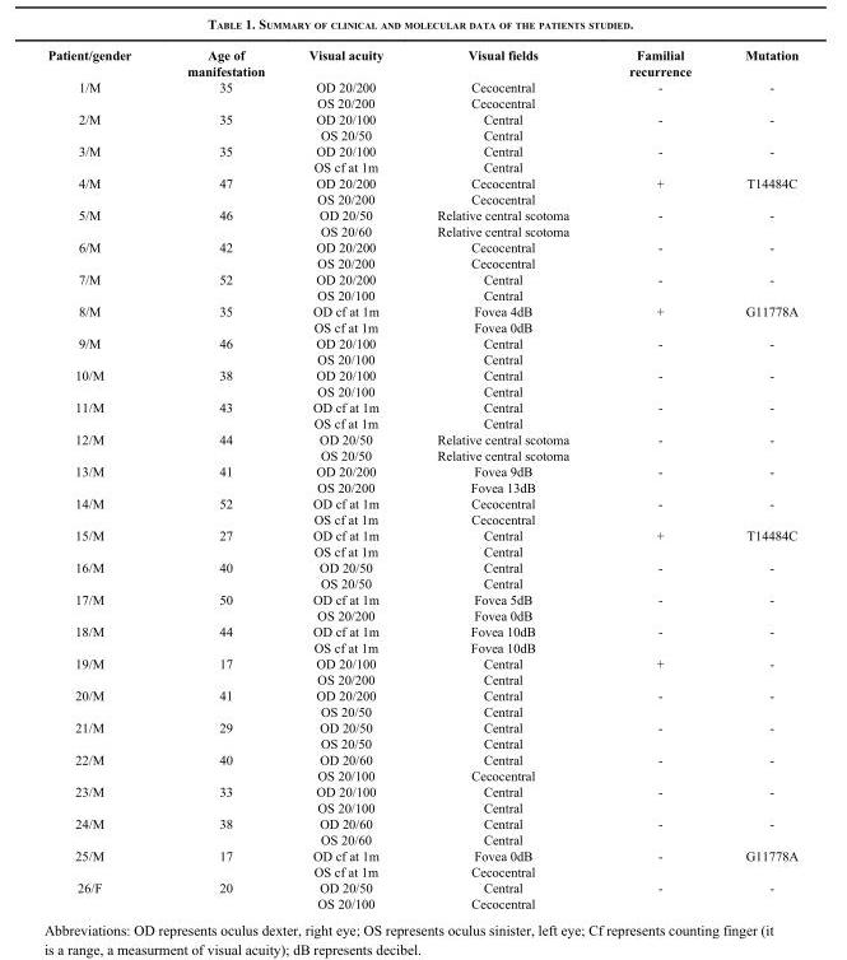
<table><thead><tr><td>Patient/gender</td><td>Age of manifestation</td><td>Visual acuity</td><td>Visual fields</td><td>Familial recurrence</td><td>Mutation</td></tr></thead><tbody><tr><td rowspan="2">1/M</td><td>35</td><td>OD 20/200</td><td>Cecocentral</td><td>-</td><td>-</td></tr><tr><td></td><td>OS 20/200</td><td>Cecocentral</td><td></td><td></td></tr><tr><td rowspan="2">2/M</td><td>35</td><td>OD 20/100</td><td>Central</td><td>-</td><td>-</td></tr><tr><td></td><td>OS 20/50</td><td>Central</td><td></td><td></td></tr><tr><td rowspan="2">3/M</td><td>35</td><td>OD 20/100</td><td>Central</td><td>-</td><td>-</td></tr><tr><td></td><td>OS cf at 1m</td><td>Central</td><td></td><td></td></tr><tr><td rowspan="2">4/M</td><td>47</td><td>OD 20/200</td><td>Cecocentral</td><td>+</td><td>T14484C</td></tr><tr><td></td><td>OS 20/200</td><td>Cecocentral</td><td></td><td></td></tr><tr><td rowspan="2">5/M</td><td>46</td><td>OD 20/50</td><td>Relative central scotoma</td><td>-</td><td>-</td></tr><tr><td></td><td>OS 20/60</td><td>Relative central scotoma</td><td></td><td></td></tr><tr><td rowspan="2">6/M</td><td>42</td><td>OD 20/200</td><td>Cecocentral</td><td>-</td><td>-</td></tr><tr><td></td><td>OS 20/200</td><td>Cecocentral</td><td></td><td></td></tr><tr><td rowspan="2">7/M</td><td>52</td><td>OD 20/200</td><td>Central</td><td>-</td><td>-</td></tr><tr><td></td><td>OS 20/100</td><td>Central</td><td></td><td></td></tr><tr><td rowspan="2">8/M</td><td>35</td><td>OD cf at 1m</td><td>Fovea 4dB</td><td>+</td><td>G11778A</td></tr><tr><td></td><td>OS cf at 1m</td><td>Fovea 0dB</td><td></td><td></td></tr><tr><td rowspan="2">9/M</td><td>46</td><td>OD 20/100</td><td>Central</td><td>-</td><td>-</td></tr><tr><td></td><td>OS 20/100</td><td>Central</td><td></td><td></td></tr><tr><td rowspan="2">10/M</td><td>38</td><td>OD 20/100</td><td>Central</td><td>-</td><td>-</td></tr><tr><td></td><td>OS 20/100</td><td>Central</td><td></td><td></td></tr><tr><td rowspan="2">11/M</td><td>43</td><td>OD cf at 1m</td><td>Central</td><td>-</td><td>-</td></tr><tr><td></td><td>OS cf at 1m</td><td>Central</td><td></td><td></td></tr><tr><td rowspan="2">12/M</td><td>44</td><td>OD 20/50</td><td>Relative central scotoma</td><td>-</td><td>-</td></tr><tr><td></td><td>OS 20/50</td><td>Relative central scotoma</td><td></td><td></td></tr><tr><td rowspan="2">13/M</td><td>41</td><td>OD 20/200</td><td>Fovea 9dB</td><td>-</td><td>-</td></tr><tr><td></td><td>OS 20/200</td><td>Fovea 13dB</td><td></td><td></td></tr><tr><td rowspan="2">14/M</td><td>52</td><td>OD cf at 1m</td><td>Cecocentral</td><td>-</td><td>-</td></tr><tr><td></td><td>OS cf at 1m</td><td>Cecocentral</td><td></td><td></td></tr><tr><td rowspan="2">15/M</td><td>27</td><td>OD cf at 1m</td><td>Central</td><td>+</td><td>T14484C</td></tr><tr><td></td><td>OS cf at 1m</td><td>Central</td><td></td><td></td></tr><tr><td rowspan="2">16/M</td><td>40</td><td>OD 20/50</td><td>Central</td><td>-</td><td>-</td></tr><tr><td></td><td>OS 20/50</td><td>Central</td><td></td><td></td></tr><tr><td rowspan="2">17/M</td><td>50</td><td>OD cf at 1m</td><td>Fovea 5dB</td><td>-</td><td>-</td></tr><tr><td></td><td>OS 20/200</td><td>Fovea 0dB</td><td></td><td></td></tr><tr><td rowspan="2">18/M</td><td>44</td><td>OD cf at 1m</td><td>Fovea 10dB</td><td>-</td><td>-</td></tr><tr><td></td><td>OS cf at 1m</td><td>Fovea 10dB</td><td></td><td></td></tr><tr><td rowspan="2">19/M</td><td>17</td><td>OD 20/100</td><td>Central</td><td>+</td><td>-</td></tr><tr><td></td><td>OS 20/200</td><td>Central</td><td></td><td></td></tr><tr><td rowspan="2">20/M</td><td>41</td><td>OD 20/200</td><td>Central</td><td>-</td><td>-</td></tr><tr><td></td><td>OS 20/50</td><td>Central</td><td></td><td></td></tr><tr><td rowspan="2">21/M</td><td>29</td><td>OD 20/50</td><td>Central</td><td>-</td><td>-</td></tr><tr><td></td><td>OS 20/50</td><td>Central</td><td></td><td></td></tr><tr><td rowspan="2">22/M</td><td>40</td><td>OD 20/60</td><td>Central</td><td>-</td><td>-</td></tr><tr><td></td><td>OS 20/100</td><td>Cecocentral</td><td></td><td></td></tr><tr><td rowspan="2">23/M</td><td>33</td><td>OD 20/100</td><td>Central</td><td>-</td><td>-</td></tr><tr><td></td><td>OS 20/100</td><td>Central</td><td></td><td></td></tr><tr><td rowspan="2">24/M</td><td>38</td><td>OD 20/60</td><td>Central</td><td>-</td><td>-</td></tr><tr><td></td><td>OS 20/60</td><td>Central</td><td></td><td></td></tr><tr><td rowspan="2">25/M</td><td>17</td><td>OD cf at 1m</td><td>Fovea 0dB</td><td>-</td><td>G11778A</td></tr><tr><td></td><td>OS cf at 1m</td><td>Cecocentral</td><td></td><td></td></tr><tr><td rowspan="2">26/F</td><td>20</td><td>OD 20/50</td><td>Central</td><td>-</td><td>-</td></tr><tr><td></td><td>OS 20/100</td><td>Cecocentral</td><td></td><td></td></tr></tbody></table>